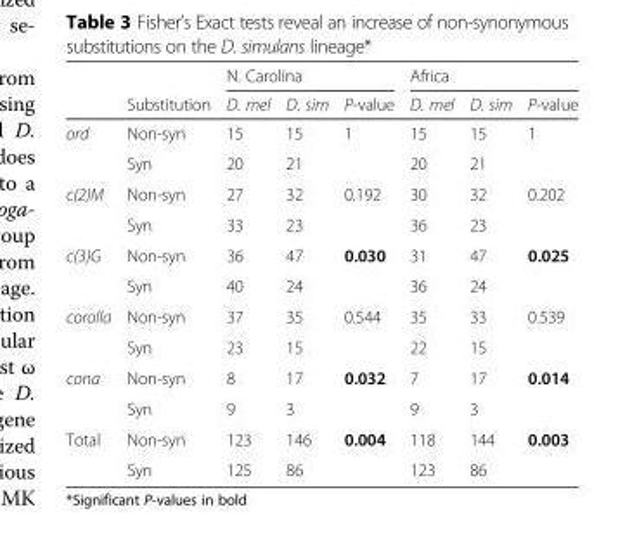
<table><thead><tr><td rowspan="2"></td><td rowspan="2">Substitution</td><td colspan="3">N. Carolina</td><td colspan="3">Africa</td></tr><tr><td>D. mel</td><td>D. sim</td><td>P-value</td><td>D. mel</td><td>D. sim</td><td>P-value</td></tr></thead><tbody><tr><td rowspan="2">ord</td><td>Non-syn</td><td>15</td><td>15</td><td rowspan="2">1</td><td>15</td><td>15</td><td rowspan="2">1</td></tr><tr><td>Syn</td><td>20</td><td>21</td><td>20</td><td>21</td></tr><tr><td rowspan="2">c(2)M</td><td>Non-syn</td><td>27</td><td>32</td><td rowspan="2">0.192</td><td>30</td><td>32</td><td rowspan="2">0.202</td></tr><tr><td>Syn</td><td>33</td><td>23</td><td>36</td><td>23</td></tr><tr><td rowspan="2">c(3)G</td><td>Non-syn</td><td>36</td><td>47</td><td rowspan="2">0.030</td><td>31</td><td>47</td><td rowspan="2">0.025</td></tr><tr><td>Syn</td><td>40</td><td>24</td><td>36</td><td>24</td></tr><tr><td rowspan="2">corolla</td><td>Non-syn</td><td>37</td><td>35</td><td rowspan="2">0.544</td><td>35</td><td>33</td><td rowspan="2">0.539</td></tr><tr><td>Syn</td><td>23</td><td>15</td><td>22</td><td>15</td></tr><tr><td rowspan="2">cona</td><td>Non-syn</td><td>8</td><td>17</td><td rowspan="2">0.032</td><td>7</td><td>17</td><td rowspan="2">0.014</td></tr><tr><td>Syn</td><td>9</td><td>3</td><td>9</td><td>3</td></tr><tr><td rowspan="2">Total</td><td>Non-syn</td><td>123</td><td>146</td><td rowspan="2">0.004</td><td>118</td><td>144</td><td rowspan="2">0.003</td></tr><tr><td>Syn</td><td>125</td><td>86</td><td>123</td><td>86</td></tr></tbody></table>